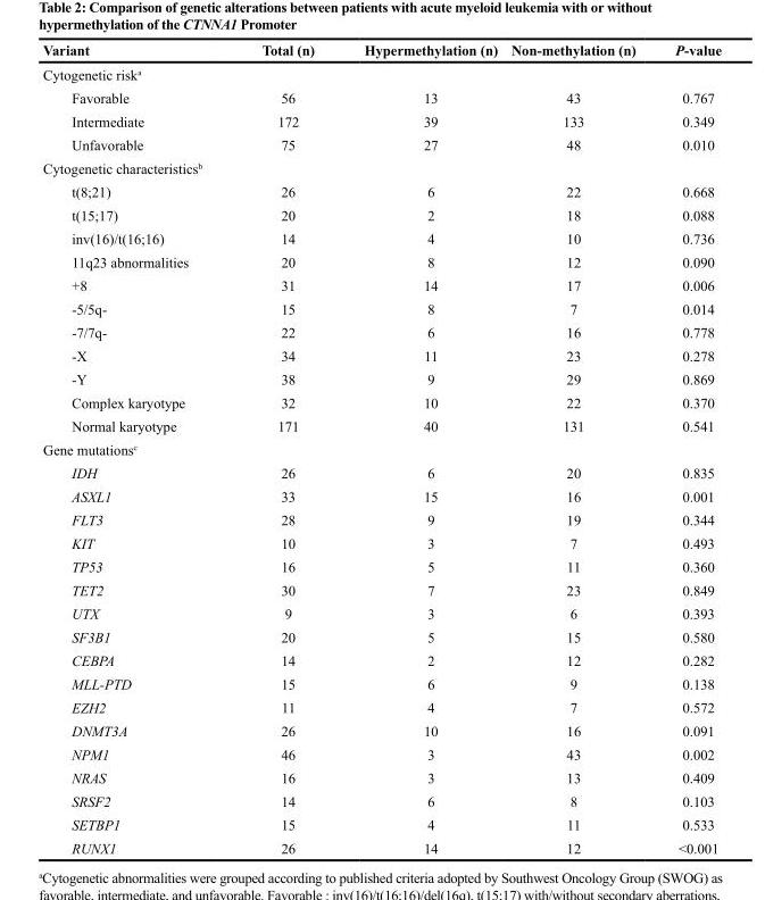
<table><thead><tr><td>Variant</td><td>Total (n)</td><td>Hypermethylation (n)</td><td>Non-methylation (n)</td><td>P-value</td></tr></thead><tbody><tr><td colspan="5">Cytogenetic risk<sup>a</sup></td></tr><tr><td>Favorable</td><td>56</td><td>13</td><td>43</td><td>0.767</td></tr><tr><td>Intermediate</td><td>172</td><td>39</td><td>133</td><td>0.349</td></tr><tr><td>Unfavorable</td><td>75</td><td>27</td><td>48</td><td>0.010</td></tr><tr><td colspan="5">Cytogenetic characteristics<sup>b</sup></td></tr><tr><td>t(8;21)</td><td>26</td><td>6</td><td>22</td><td>0.668</td></tr><tr><td>t(15;17)</td><td>20</td><td>2</td><td>18</td><td>0.088</td></tr><tr><td>inv(16)/t(16;16)</td><td>14</td><td>4</td><td>10</td><td>0.736</td></tr><tr><td>11q23 abnormalities</td><td>20</td><td>8</td><td>12</td><td>0.090</td></tr><tr><td>+8</td><td>31</td><td>14</td><td>17</td><td>0.006</td></tr><tr><td>-5/5q-</td><td>15</td><td>8</td><td>7</td><td>0.014</td></tr><tr><td>-7/7q-</td><td>22</td><td>6</td><td>16</td><td>0.778</td></tr><tr><td>-X</td><td>34</td><td>11</td><td>23</td><td>0.278</td></tr><tr><td>-Y</td><td>38</td><td>9</td><td>29</td><td>0.869</td></tr><tr><td>Complex karyotype</td><td>32</td><td>10</td><td>22</td><td>0.370</td></tr><tr><td>Normal karyotype</td><td>171</td><td>40</td><td>131</td><td>0.541</td></tr><tr><td colspan="5">Gene mutations<sup>c</sup></td></tr><tr><td>IDH</td><td>26</td><td>6</td><td>20</td><td>0.835</td></tr><tr><td>ASXL1</td><td>33</td><td>15</td><td>16</td><td>0.001</td></tr><tr><td>FLT3</td><td>28</td><td>9</td><td>19</td><td>0.344</td></tr><tr><td>KIT</td><td>10</td><td>3</td><td>7</td><td>0.493</td></tr><tr><td>TP53</td><td>16</td><td>5</td><td>11</td><td>0.360</td></tr><tr><td>TET2</td><td>30</td><td>7</td><td>23</td><td>0.849</td></tr><tr><td>UTX</td><td>9</td><td>3</td><td>6</td><td>0.393</td></tr><tr><td>SF3B1</td><td>20</td><td>5</td><td>15</td><td>0.580</td></tr><tr><td>CEBPA</td><td>14</td><td>2</td><td>12</td><td>0.282</td></tr><tr><td>MLL-PTD</td><td>15</td><td>6</td><td>9</td><td>0.138</td></tr><tr><td>EZH2</td><td>11</td><td>4</td><td>7</td><td>0.572</td></tr><tr><td>DNMT3A</td><td>26</td><td>10</td><td>16</td><td>0.091</td></tr><tr><td>NPM1</td><td>46</td><td>3</td><td>43</td><td>0.002</td></tr><tr><td>NRAS</td><td>16</td><td>3</td><td>13</td><td>0.409</td></tr><tr><td>SRSF2</td><td>14</td><td>6</td><td>8</td><td>0.103</td></tr><tr><td>SETBP1</td><td>15</td><td>4</td><td>11</td><td>0.533</td></tr><tr><td>RUNX1</td><td>26</td><td>14</td><td>12</td><td>&lt;0.001</td></tr></tbody></table>